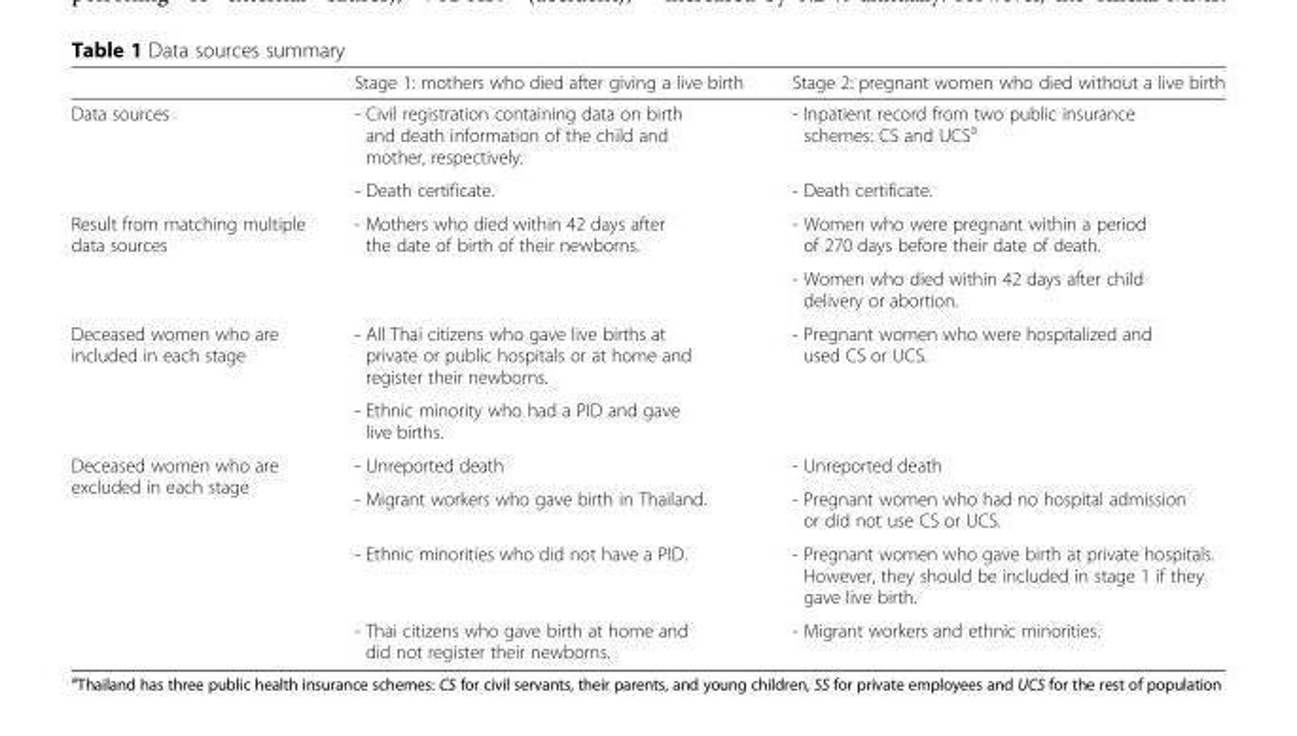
<table><thead><tr><td></td><td>Stage 1: mothers who died after giving a live birth</td><td>Stage 2: pregnant women who died without a live birth</td></tr></thead><tbody><tr><td rowspan="2">Data sources</td><td>- Civil registration containing data on birth and death information of the child and mother, respectively.</td><td>- Inpatient record from two public insurance schemes: CS and UCS<sup>a</sup></td></tr><tr><td>- Death certificate.</td><td>- Death certificate.</td></tr><tr><td rowspan="2">Result from matching multiple data sources</td><td>- Mothers who died within 42 days after the date of birth of their newborns.</td><td>- Women who were pregnant within a period of 270 days before their date of death.</td></tr><tr><td></td><td>- Women who died within 42 days after child delivery or abortion.</td></tr><tr><td rowspan="2">Deceased women who are included in each stage</td><td>- All Thai citizens who gave live births at private or public hospitals or at home and register their newborns.</td><td>- Pregnant women who were hospitalized and used CS or UCS.</td></tr><tr><td>- Ethnic minority who had a PID and gave live births.</td><td></td></tr><tr><td rowspan="4">Deceased women who are excluded in each stage</td><td>- Unreported death</td><td>- Unreported death</td></tr><tr><td>- Migrant workers who gave birth in Thailand.</td><td>- Pregnant women who had no hospital admission or did not use CS or UCS.</td></tr><tr><td>- Ethnic minorities who did not have a PID.</td><td>- Pregnant women who gave birth at private hospitals. However, they should be included in stage 1 if they gave live birth.</td></tr><tr><td>- Thai citizens who gave birth at home and did not register their newborns.</td><td>- Migrant workers and ethnic minorities.</td></tr></tbody></table>